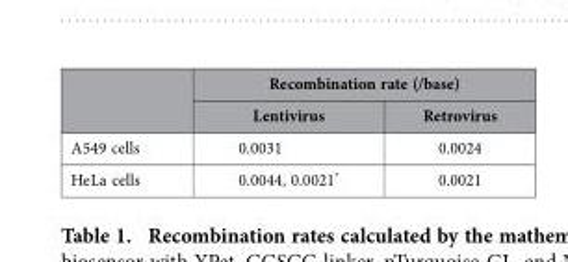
<table><thead><tr><td rowspan="2"></td><td colspan="2">Recombination rate (/base)</td></tr><tr><td>Lentivirus</td><td>Retrovirus</td></tr></thead><tbody><tr><td>A549 cells</td><td>0.0031</td><td>0.0024</td></tr><tr><td>HeLa cells</td><td>0.0044, 0.0021*</td><td>0.0021</td></tr></tbody></table>